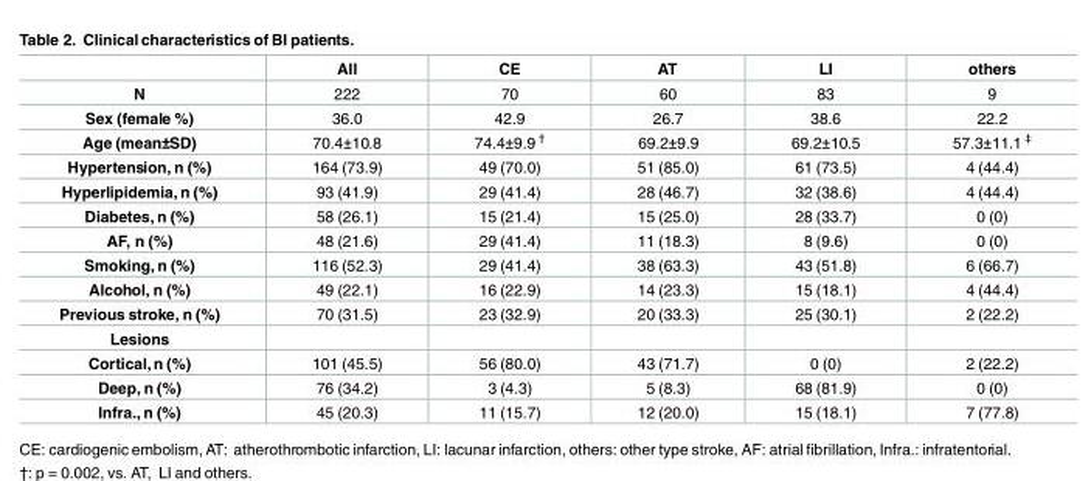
<table><thead><tr><td></td><td>All</td><td>CE</td><td>AT</td><td>LI</td><td>others</td></tr></thead><tbody><tr><td>N</td><td>222</td><td>70</td><td>60</td><td>83</td><td>9</td></tr><tr><td>Sex (female %)</td><td>36.0</td><td>42.9</td><td>26.7</td><td>38.6</td><td>22.2</td></tr><tr><td>Age (mean±SD)</td><td>70.4±10.8</td><td>74.4±9.9 <sup>†</sup></td><td>69.2±9.9</td><td>69.2±10.5</td><td>57.3±11.1 <sup>‡</sup></td></tr><tr><td>Hypertension, n (%)</td><td>164 (73.9)</td><td>49 (70.0)</td><td>51 (85.0)</td><td>61 (73.5)</td><td>4 (44.4)</td></tr><tr><td>Hyperlipidemia, n (%)</td><td>93 (41.9)</td><td>29 (41.4)</td><td>28 (46.7)</td><td>32 (38.6)</td><td>4 (44.4)</td></tr><tr><td>Diabetes, n (%)</td><td>58 (26.1)</td><td>15 (21.4)</td><td>15 (25.0)</td><td>28 (33.7)</td><td>0 (0)</td></tr><tr><td>AF, n (%)</td><td>48 (21.6)</td><td>29 (41.4)</td><td>11 (18.3)</td><td>8 (9.6)</td><td>0 (0)</td></tr><tr><td>Smoking, n (%)</td><td>116 (52.3)</td><td>29 (41.4)</td><td>38 (63.3)</td><td>43 (51.8)</td><td>6 (66.7)</td></tr><tr><td>Alcohol, n (%)</td><td>49 (22.1)</td><td>16 (22.9)</td><td>14 (23.3)</td><td>15 (18.1)</td><td>4 (44.4)</td></tr><tr><td>Previous stroke, n (%)</td><td>70 (31.5)</td><td>23 (32.9)</td><td>20 (33.3)</td><td>25 (30.1)</td><td>2 (22.2)</td></tr><tr><td colspan="6">Lesions</td></tr><tr><td>Cortical,n (%)</td><td>101 (45.5)</td><td>56 (80.0)</td><td>43 (71.7)</td><td>0 (0)</td><td>2 (22.2)</td></tr><tr><td>Deep, n (%)</td><td>76 (34.2)</td><td>3 (4.3)</td><td>5 (8.3)</td><td>68 (81.9)</td><td>0 (0)</td></tr><tr><td>Infra., n (%)</td><td>45 (20.3)</td><td>11 (15.7)</td><td>12 (20.0)</td><td>15 (18.1)</td><td>7 (77.8)</td></tr></tbody></table>